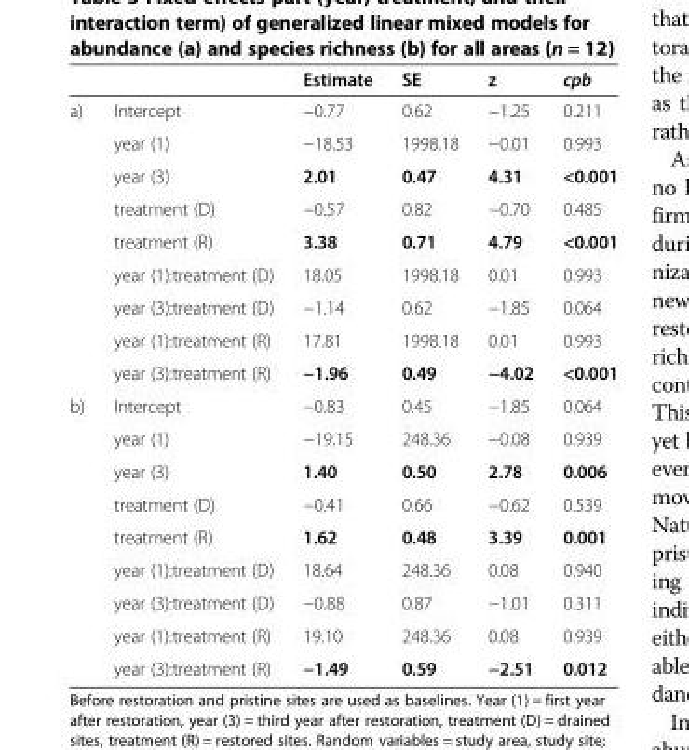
<table><thead><tr><td></td><td></td><td>Estimate</td><td>SE</td><td>z</td><td>cpb</td></tr></thead><tbody><tr><td rowspan="9">a)</td><td>Intercept</td><td>−0.77</td><td>0.62</td><td>−1.25</td><td>0.211</td></tr><tr><td>year (1)</td><td>−18.53</td><td>1998.18</td><td>−0.01</td><td>0.993</td></tr><tr><td>year (3)</td><td>2.01</td><td>0.47</td><td>4.31</td><td>&lt;0.001</td></tr><tr><td>treatment (D)</td><td>−0.57</td><td>0.82</td><td>−0.70</td><td>0.485</td></tr><tr><td>treatment (R)</td><td>3.38</td><td>0.71</td><td>4.79</td><td>&lt;0.001</td></tr><tr><td>year (1):treatment (D)</td><td>18.05</td><td>1998.18</td><td>0.01</td><td>0.993</td></tr><tr><td>year (3):treatment (D)</td><td>−1.14</td><td>0.62</td><td>−1.85</td><td>0.064</td></tr><tr><td>year (1):treatment (R)</td><td>17.81</td><td>1998.18</td><td>0.01</td><td>0.993</td></tr><tr><td>year (3):treatment (R)</td><td>−1.96</td><td>0.49</td><td>−4.02</td><td>&lt;0.001</td></tr><tr><td rowspan="9">b)</td><td>Intercept</td><td>−0.83</td><td>0.45</td><td>−1.85</td><td>0.064</td></tr><tr><td>year (1)</td><td>−19.15</td><td>248.36</td><td>−0.08</td><td>0.939</td></tr><tr><td>year (3)</td><td>1.40</td><td>0.50</td><td>2.78</td><td>0.006</td></tr><tr><td>treatment (D)</td><td>−0.41</td><td>0.66</td><td>−0.62</td><td>0.539</td></tr><tr><td>treatment (R)</td><td>1.62</td><td>0.48</td><td>3.39</td><td>0.001</td></tr><tr><td>year (1):treatment (D)</td><td>18.64</td><td>248.36</td><td>0.08</td><td>0.940</td></tr><tr><td>year (3):treatment (D)</td><td>−0.88</td><td>0.87</td><td>−1.01</td><td>0.311</td></tr><tr><td>year (1):treatment (R)</td><td>19.10</td><td>248.36</td><td>0.08</td><td>0.939</td></tr><tr><td>year (3):treatment (R)</td><td>−1.49</td><td>0.59</td><td>−2.51</td><td>0.012</td></tr></tbody></table>